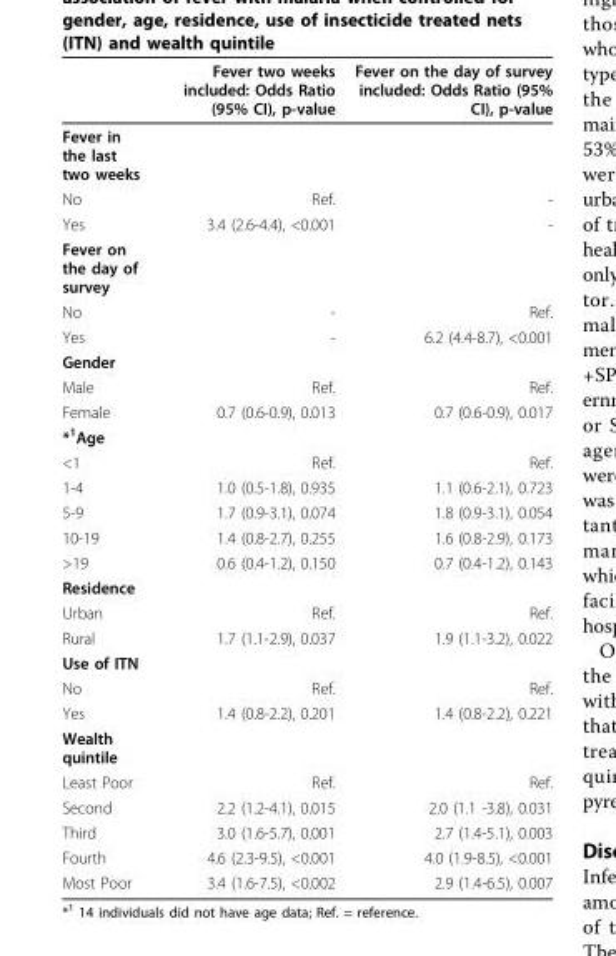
<table><thead><tr><td></td><td>Fever two weeks included: Odds Ratio (95% CI), p-value</td><td>Fever on the day of survey included: Odds Ratio (95% CI), p-value</td></tr></thead><tbody><tr><td colspan="3">Fever in the last two weeks</td></tr><tr><td>No</td><td>Ref.</td><td>-</td></tr><tr><td>Yes</td><td>3.4 (2.6-4.4), &lt;0.001</td><td>-</td></tr><tr><td colspan="3">Fever on the day of survey</td></tr><tr><td>No</td><td>-</td><td>Ref.</td></tr><tr><td>Yes</td><td>-</td><td>6.2 (4.4-8.7), &lt;0.001</td></tr><tr><td colspan="3">Gender</td></tr><tr><td>Male</td><td>Ref.</td><td>Ref.</td></tr><tr><td>Female</td><td>0.7 (0.6-0.9), 0.013</td><td>0.7 (0.6-0.9), 0.017</td></tr><tr><td colspan="3">*<sup>1</sup>Age</td></tr><tr><td>&lt;1</td><td>Ref.</td><td>Ref.</td></tr><tr><td>1-4</td><td>1.0 (0.5-1.8), 0.935</td><td>1.1 (0.6-2.1), 0.723</td></tr><tr><td>5-9</td><td>1.7 (0.9-3.1), 0.074</td><td>1.8 (0.9-3.1), 0.054</td></tr><tr><td>10-19</td><td>1.4 (0.8-2.7), 0.255</td><td>1.6 (0.8-2.9), 0.173</td></tr><tr><td>&gt;19</td><td>0.6 (0.4-1.2), 0.150</td><td>0.7 (0.4-1.2), 0.143</td></tr><tr><td colspan="3">Residence</td></tr><tr><td>Urban</td><td>Ref.</td><td>Ref.</td></tr><tr><td>Rural</td><td>1.7 (1.1-2.9), 0.037</td><td>1.9 (1.1-3.2), 0.022</td></tr><tr><td colspan="3">Use of ITN</td></tr><tr><td>No</td><td>Ref.</td><td>Ref.</td></tr><tr><td>Yes</td><td>1.4 (0.8-2.2), 0.201</td><td>1.4 (0.8-2.2), 0.221</td></tr><tr><td colspan="3">Wealth quintile</td></tr><tr><td>Least Poor</td><td>Ref.</td><td>Ref.</td></tr><tr><td>Second</td><td>2.2 (1.2-4.1), 0.015</td><td>2.0 (1.1 -3.8), 0.031</td></tr><tr><td>Third</td><td>3.0 (1.6-5.7), 0.001</td><td>2.7 (1.4-5.1), 0.003</td></tr><tr><td>Fourth</td><td>4.6 (2.3-9.5), &lt;0.001</td><td>4.0 (1.9-8.5), &lt;0.001</td></tr><tr><td>Most Poor</td><td>3.4 (1.6-7.5), &lt;0.002</td><td>2.9 (1.4-6.5), 0.007</td></tr></tbody></table>